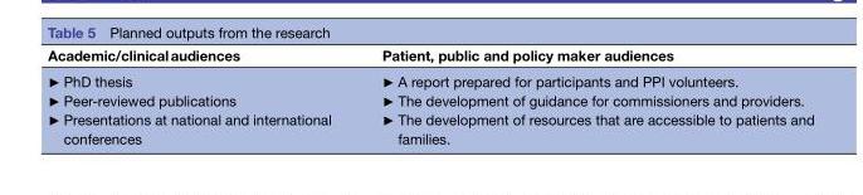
<table><thead><tr><td>Academic/clinical audiences</td><td>Patient, public and policy maker audiences</td></tr></thead><tbody><tr><td>► PhD thesis ► Peer-reviewed publications ► Presentations at national and international conferences</td><td>► A report prepared for participants and PPI volunteers. ► The development of guidance for commissioners and providers. ► The development of resources that are accessible to patients and families.</td></tr></tbody></table>